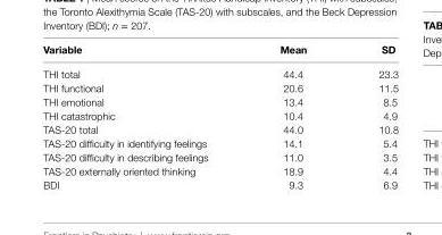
<table><thead><tr><td>Variable</td><td>Mean</td><td>sD</td></tr></thead><tbody><tr><td>THI total</td><td>44.4</td><td>23.3</td></tr><tr><td>THI functional</td><td>20.6</td><td>11.5</td></tr><tr><td>THI emotional</td><td>13.4</td><td>8.5</td></tr><tr><td>THI catastrophic</td><td>10.4</td><td>4.9</td></tr><tr><td>TAS-20 total</td><td>44.0</td><td>10.8</td></tr><tr><td>TAS-20 difficulty in identifying feelings</td><td>14.1</td><td>5.4</td></tr><tr><td>TAS-20 difficulty in describing feelings</td><td>11.0</td><td>3.5</td></tr><tr><td>TAS-20 externally oriented thinking</td><td>18.9</td><td>4.4</td></tr><tr><td>BDI</td><td>9.3</td><td>6.9</td></tr></tbody></table>